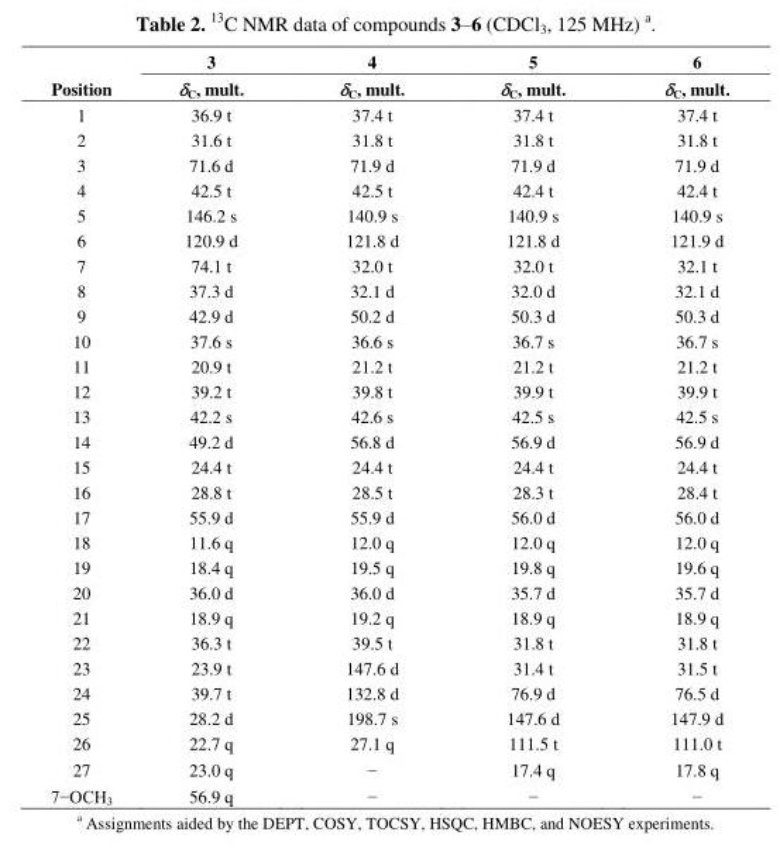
<table><thead><tr><td rowspan="2">Position</td><td rowspan="2">3 δC, mult.</td><td rowspan="2">4 δC, mult.</td><td rowspan="2">5 δC, mult.</td><td rowspan="2">6 δC, mult.</td></tr><tr></tr></thead><tbody><tr><td>1</td><td>36.9 t</td><td>37.4 t</td><td>37.4 t</td><td>37.4 t</td></tr><tr><td>2</td><td>31.6 t</td><td>31.8 t</td><td>31.8 t</td><td>31.8 t</td></tr><tr><td>3</td><td>71.6 d</td><td>71.9 d</td><td>71.9 d</td><td>71.9 d</td></tr><tr><td>4</td><td>42.5 t</td><td>42.5 t</td><td>42.4 t</td><td>42.4 t</td></tr><tr><td>5</td><td>146.2 s</td><td>140.9 s</td><td>140.9 s</td><td>140.9 s</td></tr><tr><td>6</td><td>120.9 d</td><td>121.8 d</td><td>121.8 d</td><td>121.9 d</td></tr><tr><td>7</td><td>74.1 t</td><td>32.0 t</td><td>32.0 t</td><td>32.1 t</td></tr><tr><td>8</td><td>37.3 d</td><td>32.1 d</td><td>32.0 d</td><td>32.1 d</td></tr><tr><td>9</td><td>42.9 d</td><td>50.2 d</td><td>50.3 d</td><td>50.3 d</td></tr><tr><td>10</td><td>37.6 s</td><td>36.6 s</td><td>36.7 s</td><td>36.7 s</td></tr><tr><td>11</td><td>20.9 t</td><td>21.2 t</td><td>21.2 t</td><td>21.2 t</td></tr><tr><td>12</td><td>39.2 t</td><td>39.8 t</td><td>39.9 t</td><td>39.9 t</td></tr><tr><td>13</td><td>42.2 s</td><td>42.6 s</td><td>42.5 s</td><td>42.5 s</td></tr><tr><td>14</td><td>49.2 d</td><td>56.8 d</td><td>56.9 d</td><td>56.9 d</td></tr><tr><td>15</td><td>24.4 t</td><td>24.4 t</td><td>24.4 t</td><td>24.4 t</td></tr><tr><td>16</td><td>28.8 t</td><td>28.5 t</td><td>28.3 t</td><td>28.4 t</td></tr><tr><td>17</td><td>55.9 d</td><td>55.9 d</td><td>56.0 d</td><td>56.0 d</td></tr><tr><td>18</td><td>11.6 q</td><td>12.0 q</td><td>12.0 q</td><td>12.0 q</td></tr><tr><td>19</td><td>18.4 q</td><td>19.5 q</td><td>19.8 q</td><td>19.6 q</td></tr><tr><td>20</td><td>36.0 d</td><td>36.0 d</td><td>35.7 d</td><td>35.7 d</td></tr><tr><td>21</td><td>18.9 q</td><td>19.2 q</td><td>18.9 q</td><td>18.9 q</td></tr><tr><td>22</td><td>36.3 t</td><td>39.5 t</td><td>31.8 t</td><td>31.8 t</td></tr><tr><td>23</td><td>23.9 t</td><td>147.6 d</td><td>31.4 t</td><td>31.5 t</td></tr><tr><td>24</td><td>39.7 t</td><td>132.8 d</td><td>76.9 d</td><td>76.5 d</td></tr><tr><td>25</td><td>28.2 d</td><td>198.7 s</td><td>147.6 d</td><td>147.9 d</td></tr><tr><td>26</td><td>22.7 q</td><td>27.1 q</td><td>111.5 t</td><td>111.0 t</td></tr><tr><td>27</td><td>23.0 q</td><td>−</td><td>17.4 q</td><td>17.8 q</td></tr><tr><td>7−OCH<sub>3</sub></td><td>56.9 q</td><td>−</td><td>−</td><td>−</td></tr></tbody></table>